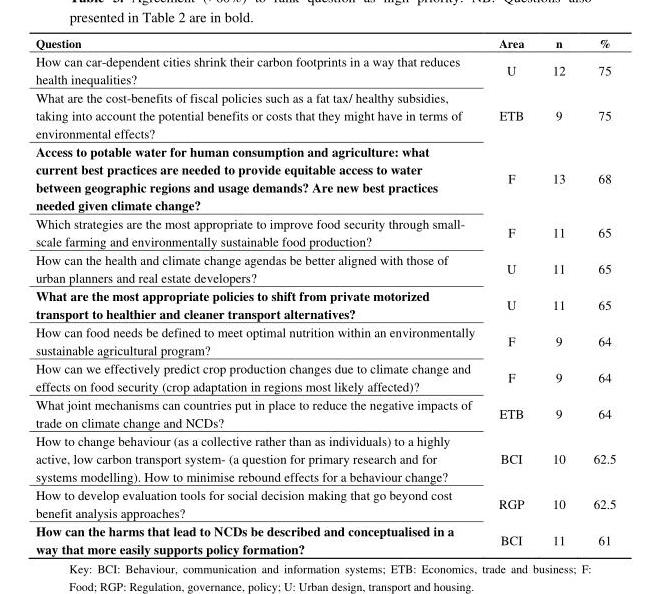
<table><thead><tr><td>Question</td><td>Area</td><td>n</td><td>%</td></tr></thead><tbody><tr><td>How can car-dependent cities shrink their carbon footprints in a way that reduces health inequalities?</td><td>U</td><td>12</td><td>75</td></tr><tr><td>What are the cost-benefits of fiscal policies such as a fat tax/ healthy subsidies, taking into account the potential benefits or costs that they might have in terms of environmental effects?</td><td>ETB</td><td>9</td><td>75</td></tr><tr><td>Access to potable water for human consumption and agriculture: what current best practices are needed to provide equitable access to water between geographic regions and usage demands? Are new best practices needed given climate change?</td><td>F</td><td>13</td><td>68</td></tr><tr><td>Which strategies are the most appropriate to improve food security through small- scale farming and environmentally sustainable food production?</td><td>F</td><td>11</td><td>65</td></tr><tr><td>How can the health and climate change agendas be better aligned with those of urban planners and real estate developers?</td><td>U</td><td>11</td><td>65</td></tr><tr><td>What are the most appropriate policies to shift from private motorized transport to healthier and cleaner transport alternatives?</td><td>U</td><td>11</td><td>65</td></tr><tr><td>How can food needs be defined to meet optimal nutrition within an environmentally sustainable agricultural program?</td><td>F</td><td>9</td><td>64</td></tr><tr><td>How can we effectively predict crop production changes due to climate change and effects on food security (crop adaptation in regions most likely affected)?</td><td>F</td><td>9</td><td>64</td></tr><tr><td>What joint mechanisms can countries put in place to reduce the negative impacts of trade on climate change and NCDs?</td><td>ETB</td><td>9</td><td>64</td></tr><tr><td>How to change behaviour (as a collective rather than as individuals) to a highly active, low carbon transport system- (a question for primary research and for systems modelling). How to minimise rebound effects for a behaviour change?</td><td>BCI</td><td>10</td><td>62.5</td></tr><tr><td>How to develop evaluation tools for social decision making that go beyond cost benefit analysis approaches?</td><td>RGP</td><td>10</td><td>62.5</td></tr><tr><td>How can the harms that lead to NCDs be described and conceptualised in a way that more easily supports policy formation?</td><td>BCI</td><td>11</td><td>61</td></tr></tbody></table>